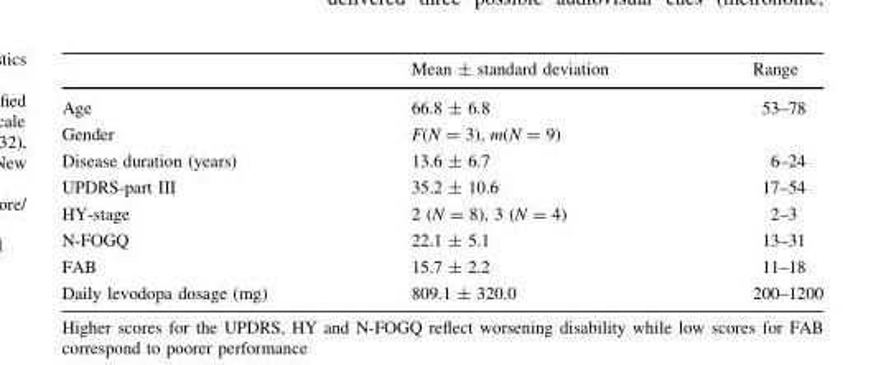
<table><thead><tr><td></td><td>Mean ± standard deviation</td><td>Range</td></tr></thead><tbody><tr><td>Age</td><td>66.8 ± 6.8</td><td>53–78</td></tr><tr><td>Gender</td><td>F(N = 3), m(N = 9)</td><td></td></tr><tr><td>Disease duration (years)</td><td>13.6 ± 6.7</td><td>6–24</td></tr><tr><td>UPDRS-part III</td><td>35.2 ± 10.6</td><td>17–54</td></tr><tr><td>HY-stage</td><td>2 (N = 8), 3 (N = 4)</td><td>2–3</td></tr><tr><td>N-FOGQ</td><td>22.1 ± 5.1</td><td>13–31</td></tr><tr><td>FAB</td><td>15.7 ± 2.2</td><td>11–18</td></tr><tr><td>Daily levodopa dosage (mg)</td><td>809.1 ± 320.0</td><td>200–1200</td></tr></tbody></table>